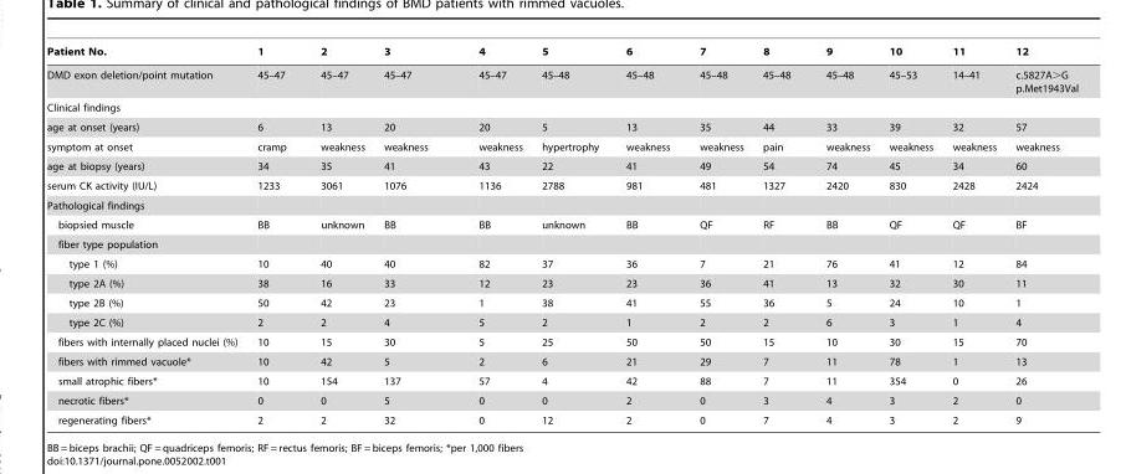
<table><thead><tr><td>Patient No.</td><td>1</td><td>2</td><td>3</td><td>4</td><td>5</td><td>6</td><td>7</td><td>8</td><td>9</td><td>10</td><td>11</td><td>12</td></tr></thead><tbody><tr><td>DMD exon deletion/point mutation</td><td>45–47</td><td>45–47</td><td>45–47</td><td>45–47</td><td>45–48</td><td>45–48</td><td>45–48</td><td>45–48</td><td>45–48</td><td>45–53</td><td>14–41</td><td>c.5827A&gt;G p.Met1943Val</td></tr><tr><td colspan="13">Clinical findings</td></tr><tr><td>age at onset (years)</td><td>6</td><td>13</td><td>20</td><td>20</td><td>5</td><td>13</td><td>35</td><td>44</td><td>33</td><td>39</td><td>32</td><td>57</td></tr><tr><td>symptom at onset</td><td>cramp</td><td>weakness</td><td>weakness</td><td>weakness</td><td>hypertrophy</td><td>weakness</td><td>weakness</td><td>pain</td><td>weakness</td><td>weakness</td><td>weakness</td><td>weakness</td></tr><tr><td>age at biopsy (years)</td><td>34</td><td>35</td><td>41</td><td>43</td><td>22</td><td>41</td><td>49</td><td>54</td><td>74</td><td>45</td><td>34</td><td>60</td></tr><tr><td>serum CK activity (IU/L)</td><td>1233</td><td>3061</td><td>1076</td><td>1136</td><td>2788</td><td>981</td><td>481</td><td>1327</td><td>2420</td><td>830</td><td>2428</td><td>2424</td></tr><tr><td colspan="13">Pathological findings</td></tr><tr><td>biopsied muscle</td><td>BB</td><td>unknown</td><td>BB</td><td>BB</td><td>unknown</td><td>BB</td><td>QF</td><td>RF</td><td>BB</td><td>QF</td><td>QF</td><td>BF</td></tr><tr><td colspan="13">fiber type population</td></tr><tr><td>type 1 (%)</td><td>10</td><td>40</td><td>40</td><td>82</td><td>37</td><td>36</td><td>7</td><td>21</td><td>76</td><td>41</td><td>12</td><td>84</td></tr><tr><td>type 2A (%)</td><td>38</td><td>16</td><td>33</td><td>12</td><td>23</td><td>23</td><td>36</td><td>41</td><td>13</td><td>32</td><td>30</td><td>11</td></tr><tr><td>type 2B (%)</td><td>50</td><td>42</td><td>23</td><td>1</td><td>38</td><td>41</td><td>55</td><td>36</td><td>5</td><td>24</td><td>10</td><td>1</td></tr><tr><td>type 2C (%)</td><td>2</td><td>2</td><td>4</td><td>5</td><td>2</td><td>1</td><td>2</td><td>2</td><td>6</td><td>3</td><td>1</td><td>4</td></tr><tr><td>fibers with internally placed nuclei (%)</td><td>10</td><td>15</td><td>30</td><td>5</td><td>25</td><td>50</td><td>50</td><td>15</td><td>10</td><td>30</td><td>15</td><td>70</td></tr><tr><td>fibers with rimmed vacuole*</td><td>10</td><td>42</td><td>5</td><td>2</td><td>6</td><td>21</td><td>29</td><td>7</td><td>11</td><td>78</td><td>1</td><td>13</td></tr><tr><td>small atrophic fibers*</td><td>10</td><td>154</td><td>137</td><td>57</td><td>4</td><td>42</td><td>88</td><td>7</td><td>11</td><td>354</td><td>0</td><td>26</td></tr><tr><td>necrotic fibers*</td><td>0</td><td>0</td><td>5</td><td>0</td><td>0</td><td>2</td><td>0</td><td>3</td><td>4</td><td>3</td><td>2</td><td>0</td></tr><tr><td>regenerating fibers*</td><td>2</td><td>2</td><td>32</td><td>0</td><td>12</td><td>2</td><td>0</td><td>7</td><td>4</td><td>3</td><td>2</td><td>9</td></tr></tbody></table>